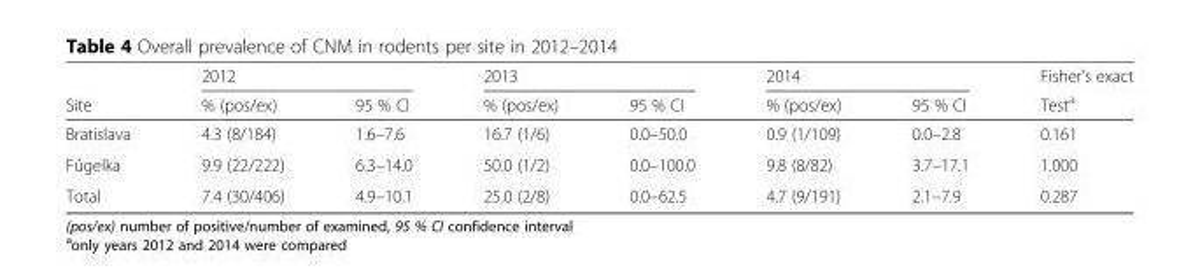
<table><thead><tr><td rowspan="2">Site</td><td colspan="2">2012</td><td colspan="2">2013</td><td colspan="2">2014</td><td rowspan="2">Fisher’s exact Test<sup>a</sup></td></tr><tr><td>% (pos/ex)</td><td>95 % CI</td><td>% (pos/ex)</td><td>95 % CI</td><td>% (pos/ex)</td><td>95 % CI</td></tr></thead><tbody><tr><td>Bratislava</td><td>4.3 (8/184)</td><td>1.6–7.6</td><td>16.7 (1/6)</td><td>0.0–50.0</td><td>0.9 (1/109)</td><td>0.0–2.8</td><td>0.161</td></tr><tr><td>Fúgelka</td><td>9.9 (22/222)</td><td>6.3–14.0</td><td>50.0 (1/2)</td><td>0.0–100.0</td><td>9.8 (8/82)</td><td>3.7–17.1</td><td>1.000</td></tr><tr><td>Total</td><td>7.4 (30/406)</td><td>4.9–10.1</td><td>25.0 (2/8)</td><td>0.0–62.5</td><td>4.7 (9/191)</td><td>2.1–7.9</td><td>0.287</td></tr></tbody></table>